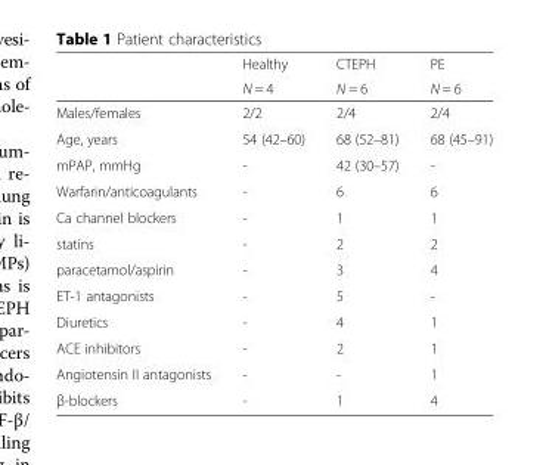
<table><thead><tr><td rowspan="2"></td><td rowspan="2">Healthy N = 4</td><td rowspan="2">CTEPH N = 6</td><td rowspan="2">PE N = 6</td></tr><tr></tr></thead><tbody><tr><td>Males/females</td><td>2/2</td><td>2/4</td><td>2/4</td></tr><tr><td>Age, years</td><td>54 (42–60)</td><td>68 (52–81)</td><td>68 (45–91)</td></tr><tr><td>mPAP, mmHg</td><td>-</td><td>42 (30–57)</td><td>-</td></tr><tr><td>Warfarin/anticoagulants</td><td>-</td><td>6</td><td>6</td></tr><tr><td>Ca channel blockers</td><td>-</td><td>1</td><td>1</td></tr><tr><td>statins</td><td>-</td><td>2</td><td>2</td></tr><tr><td>paracetamol/aspirin</td><td>-</td><td>3</td><td>4</td></tr><tr><td>ET-1 antagonists</td><td>-</td><td>5</td><td>-</td></tr><tr><td>Diuretics</td><td>-</td><td>4</td><td>1</td></tr><tr><td>ACE inhibitors</td><td>-</td><td>2</td><td>1</td></tr><tr><td>Angiotensin II antagonists</td><td>-</td><td>-</td><td>1</td></tr><tr><td>β-blockers</td><td>-</td><td>1</td><td>4</td></tr></tbody></table>